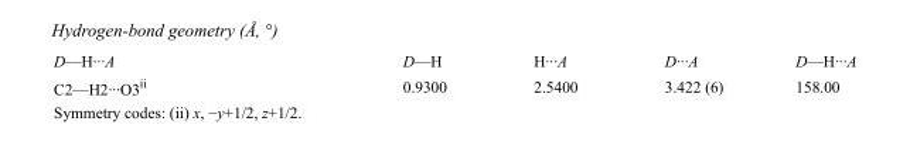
<table><tbody><tr><td>D—H···A</td><td>D—H</td><td>H···A</td><td>D···A</td><td>D—H···A</td></tr><tr><td>C2—H2···O3<sup>ii</sup></td><td>0.9300</td><td>2.5400</td><td>3.422 (6)</td><td>158.00</td></tr></tbody></table>